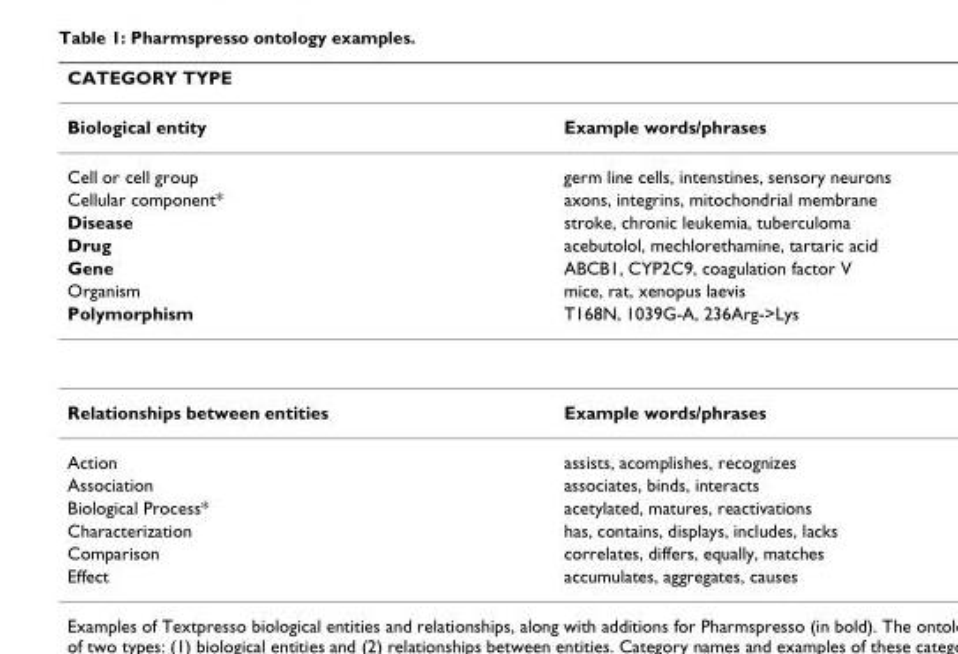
<table><thead><tr><td>CATEGORY TYPE</td><td></td></tr></thead><tbody><tr><td>Biological entity</td><td>Example words/phrases</td></tr><tr><td>Cell or cell group</td><td>germ line cells, intenstines, sensory neurons</td></tr><tr><td>Cellular component*</td><td>axons, integrins, mitochondrial membrane</td></tr><tr><td>Disease</td><td>stroke, chronic leukemia, tuberculoma</td></tr><tr><td>Drug</td><td>acebutolol, mechlorethamine, tartaric acid</td></tr><tr><td>Gene</td><td>ABCB1, CYP2C9, coagulation factor V</td></tr><tr><td>Organism</td><td>mice, rat, xenopus laevis</td></tr><tr><td>Polymorphism</td><td>T168N, 1039G-A, 236Arg-&gt;Lys</td></tr><tr><td>Relationships between entities</td><td>Example words/phrases</td></tr><tr><td>Action</td><td>assists, acomplishes, recognizes</td></tr><tr><td>Association</td><td>associates, binds, interacts</td></tr><tr><td>Biological Process*</td><td>acetylated, matures, reactivations</td></tr><tr><td>Characterization</td><td>has, contains, displays, includes, lacks</td></tr><tr><td>Comparison</td><td>correlates, differs, equally, matches</td></tr><tr><td>Effect</td><td>accumulates, aggregates, causes</td></tr></tbody></table>